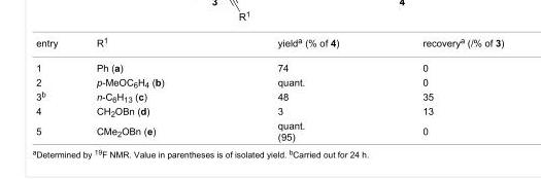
<table><tbody><tr><td>entry</td><td>R<sup>1</sup></td><td>yield<sup>a</sup> (% of 4)</td><td>recovery<sup>a</sup> (/% of 3)</td></tr><tr><td>1</td><td>Ph (a)</td><td>74</td><td>0</td></tr><tr><td>2</td><td>p-MeOC<sub>6</sub>H<sub>4</sub> (b)</td><td>quant.</td><td>0</td></tr><tr><td>3<sup>b</sup></td><td>n-C<sub>6</sub>H<sub>13</sub> (c)</td><td>48</td><td>35</td></tr><tr><td>4</td><td>CH<sub>2</sub>OBn (d)</td><td>3</td><td>13</td></tr><tr><td>5</td><td>CMe<sub>2</sub>OBn (e)</td><td>quant. (95)</td><td>0</td></tr></tbody></table>